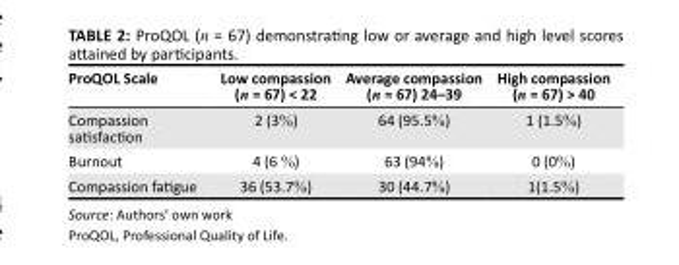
<table><thead><tr><td>ProQOL Scale</td><td>Low compassion (n = 67) &lt; 22</td><td>Average compassion (n = 67) 24–39</td><td>High compassion (n = 67) &gt; 40</td></tr></thead><tbody><tr><td>Compassion satisfaction</td><td>2 (3%)</td><td>64 (95.5%)</td><td>1 (1.5%)</td></tr><tr><td>Burnout</td><td>4 (6 %)</td><td>63 (94%)</td><td>0 (0%)</td></tr><tr><td>Compassion fatigue</td><td>36 (53.7%)</td><td>30 (44.7%)</td><td>1(1.5%)</td></tr></tbody></table>